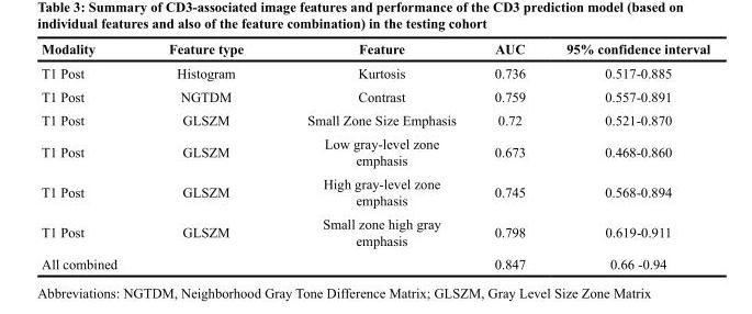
<table><thead><tr><td>Modality</td><td>Feature type</td><td>Feature</td><td>AUC</td><td>95% confidence interval</td></tr></thead><tbody><tr><td>T1 Post</td><td>Histogram</td><td>Kurtosis</td><td>0.736</td><td>0.517-0.885</td></tr><tr><td>T1 Post</td><td>NGTDM</td><td>Contrast</td><td>0.759</td><td>0.557-0.891</td></tr><tr><td>T1 Post</td><td>GLSZM</td><td>Small Zone Size Emphasis</td><td>0.72</td><td>0.521-0.870</td></tr><tr><td>T1 Post</td><td>GLSZM</td><td>Low gray-level zone emphasis</td><td>0.673</td><td>0.468-0.860</td></tr><tr><td>T1 Post</td><td>GLSZM</td><td>High gray-level zone emphasis</td><td>0.745</td><td>0.568-0.894</td></tr><tr><td>T1 Post</td><td>GLSZM</td><td>Small zone high gray emphasis</td><td>0.798</td><td>0.619-0.911</td></tr><tr><td>All combined</td><td></td><td></td><td>0.847</td><td>0.66 -0.94</td></tr></tbody></table>